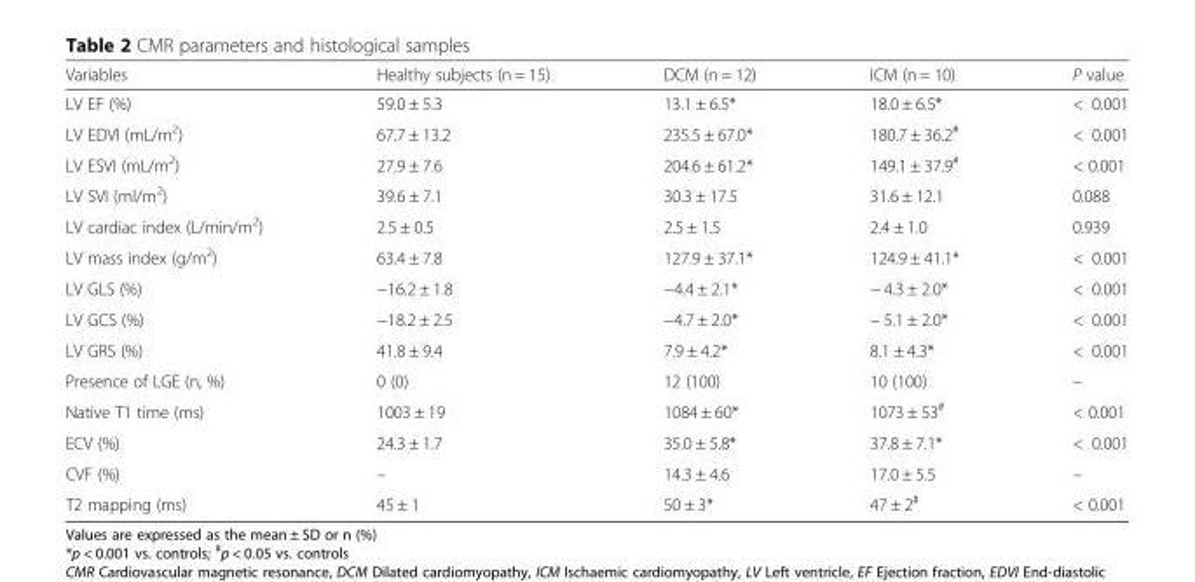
<table><thead><tr><td>Variables</td><td>Healthy subjects (n = 15)</td><td>DCM (n = 12)</td><td>ICM (n = 10)</td><td>P value</td></tr></thead><tbody><tr><td>LV EF (%)</td><td>59.0 ± 5.3</td><td>13.1 ± 6.5*</td><td>18.0 ± 6.5*</td><td>&lt; 0.001</td></tr><tr><td>LV EDVI (mL/m<sup>2</sup>)</td><td>67.7 ± 13.2</td><td>235.5 ± 67.0*</td><td>180.7 ± 36.2<sup>#</sup></td><td>&lt; 0.001</td></tr><tr><td>LV ESVI (mL/m<sup>2</sup>)</td><td>27.9 ± 7.6</td><td>204.6 ± 61.2*</td><td>149.1 ± 37.9<sup>#</sup></td><td>&lt; 0.001</td></tr><tr><td>LV SVI (ml/m<sup>2</sup>)</td><td>39.6 ± 7.1</td><td>30.3 ± 17.5</td><td>31.6 ± 12.1</td><td>0.088</td></tr><tr><td>LV cardiac index (L/min/m<sup>2</sup>)</td><td>2.5 ± 0.5</td><td>2.5 ± 1.5</td><td>2.4 ± 1.0</td><td>0.939</td></tr><tr><td>LV mass index (g/m<sup>2</sup>)</td><td>63.4 ± 7.8</td><td>127.9 ± 37.1*</td><td>124.9 ± 41.1*</td><td>&lt; 0.001</td></tr><tr><td>LV GLS (%)</td><td>−16.2 ± 1.8</td><td>−4.4 ± 2.1*</td><td>− 4.3 ± 2.0*</td><td>&lt; 0.001</td></tr><tr><td>LV GCS (%)</td><td>−18.2 ± 2.5</td><td>−4.7 ± 2.0*</td><td>− 5.1 ± 2.0*</td><td>&lt; 0.001</td></tr><tr><td>LV GRS (%)</td><td>41.8 ± 9.4</td><td>7.9 ± 4.2*</td><td>8.1 ± 4.3*</td><td>&lt; 0.001</td></tr><tr><td>Presence of LGE (n, %)</td><td>0 (0)</td><td>12 (100)</td><td>10 (100)</td><td>–</td></tr><tr><td>Native T1 time (ms)</td><td>1003 ± 19</td><td>1084 ± 60*</td><td>1073 ± 53<sup>#</sup></td><td>&lt; 0.001</td></tr><tr><td>ECV (%)</td><td>24.3 ± 1.7</td><td>35.0 ± 5.8*</td><td>37.8 ± 7.1*</td><td>&lt; 0.001</td></tr><tr><td>CVF (%)</td><td>–</td><td>14.3 ± 4.6</td><td>17.0 ± 5.5</td><td>–</td></tr><tr><td>T2 mapping (ms)</td><td>45 ± 1</td><td>50 ± 3*</td><td>47 ± 2<sup>#</sup></td><td>&lt; 0.001</td></tr></tbody></table>